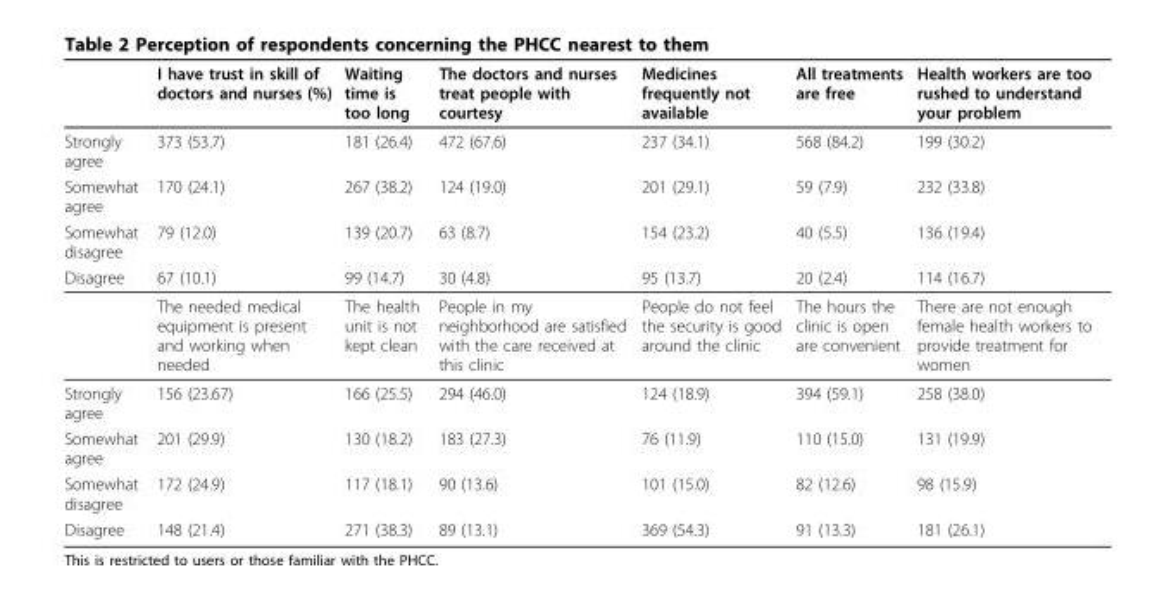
<table><thead><tr><td></td><td>I have trust in skill of doctors and nurses (%)</td><td>Waiting time is too long</td><td>The doctors and nurses treat people with courtesy</td><td>Medicines frequently not available</td><td>All treatments are free</td><td>Health workers are too rushed to understand your problem</td></tr></thead><tbody><tr><td>Strongly agree</td><td>373 (53.7)</td><td>181 (26.4)</td><td>472 (67.6)</td><td>237 (34.1)</td><td>568 (84.2)</td><td>199 (30.2)</td></tr><tr><td>Somewhat agree</td><td>170 (24.1)</td><td>267 (38.2)</td><td>124 (19.0)</td><td>201 (29.1)</td><td>59 (7.9)</td><td>232 (33.8)</td></tr><tr><td>Somewhat disagree</td><td>79 (12.0)</td><td>139 (20.7)</td><td>63 (8.7)</td><td>154 (23.2)</td><td>40 (5.5)</td><td>136 (19.4)</td></tr><tr><td rowspan="2">Disagree</td><td>67 (10.1)</td><td>99 (14.7)</td><td>30 (4.8)</td><td>95 (13.7)</td><td>20 (2.4)</td><td>114 (16.7)</td></tr><tr><td>The needed medical equipment is present and working when needed</td><td>The health unit is not kept clean</td><td>People in my neighborhood are satisfied with the care received at this clinic</td><td>People do not feel the security is good around the clinic</td><td>The hours the clinic is open are convenient</td><td>There are not enough female health workers to provide treatment for women</td></tr><tr><td>Strongly agree</td><td>156 (23.67)</td><td>166 (25.5)</td><td>294 (46.0)</td><td>124 (18.9)</td><td>394 (59.1)</td><td>258 (38.0)</td></tr><tr><td>Somewhat agree</td><td>201 (29.9)</td><td>130 (18.2)</td><td>183 (27.3)</td><td>76 (11.9)</td><td>110 (15.0)</td><td>131 (19.9)</td></tr><tr><td>Somewhat disagree</td><td>172 (24.9)</td><td>117 (18.1)</td><td>90 (13.6)</td><td>101 (15.0)</td><td>82 (12.6)</td><td>98 (15.9)</td></tr><tr><td>Disagree</td><td>148 (21.4)</td><td>271 (38.3)</td><td>89 (13.1)</td><td>369 (54.3)</td><td>91 (13.3)</td><td>181 (26.1)</td></tr></tbody></table>